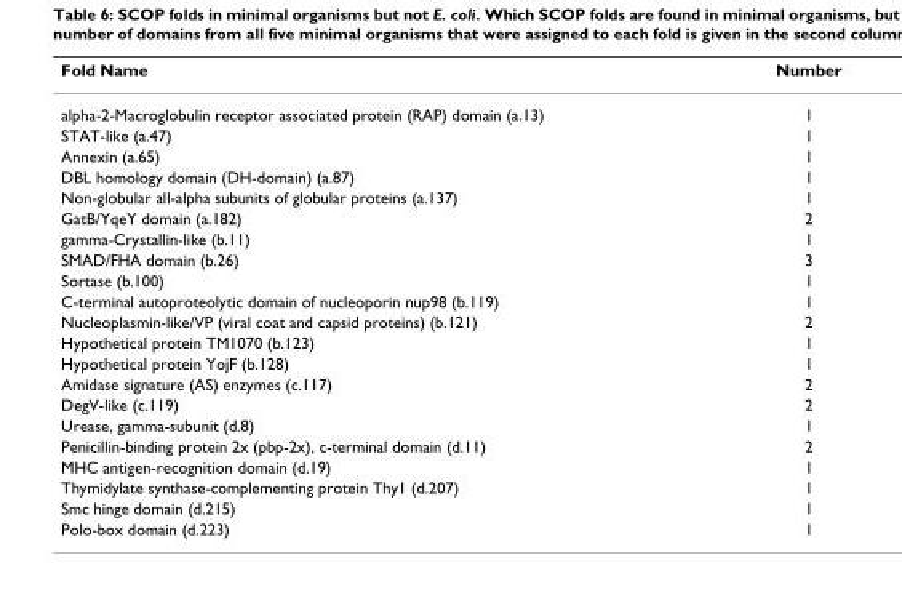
<table><thead><tr><td>Fold Name</td><td>Number</td></tr></thead><tbody><tr><td>alpha-2-Macroglobulin receptor associated protein (RAP) domain (a.13)</td><td>1</td></tr><tr><td>STAT-like (a.47)</td><td>1</td></tr><tr><td>Annexin (a.65)</td><td>1</td></tr><tr><td>DBL homology domain (DH-domain) (a.87)</td><td>1</td></tr><tr><td>Non-globular all-alpha subunits of globular proteins (a.137)</td><td>1</td></tr><tr><td>GatB/YqeY domain (a.182)</td><td>2</td></tr><tr><td>gamma-Crystallin-like (b.11)</td><td>1</td></tr><tr><td>SMAD/FHA domain (b.26)</td><td>3</td></tr><tr><td>Sortase (b.100)</td><td>1</td></tr><tr><td>C-terminal autoproteolytic domain of nucleoporin nup98 (b.119)</td><td>1</td></tr><tr><td>Nucleoplasmin-like/VP (viral coat and capsid proteins) (b.121)</td><td>2</td></tr><tr><td>Hypothetical protein TM1070 (b.123)</td><td>1</td></tr><tr><td>Hypothetical protein YojF (b.128)</td><td>1</td></tr><tr><td>Amidase signature (AS) enzymes (c.117)</td><td>2</td></tr><tr><td>DegV-like (c.119)</td><td>2</td></tr><tr><td>Urease, gamma-subunit (d.8)</td><td>1</td></tr><tr><td>Penicillin-binding protein 2x (pbp-2x), c-terminal domain (d.11)</td><td>2</td></tr><tr><td>MHC antigen-recognition domain (d.19)</td><td>1</td></tr><tr><td>Thymidylate synthase-complementing protein Thy1 (d.207)</td><td>1</td></tr><tr><td>Smc hinge domain (d.215)</td><td>1</td></tr><tr><td>Polo-box domain (d.223)</td><td>1</td></tr></tbody></table>